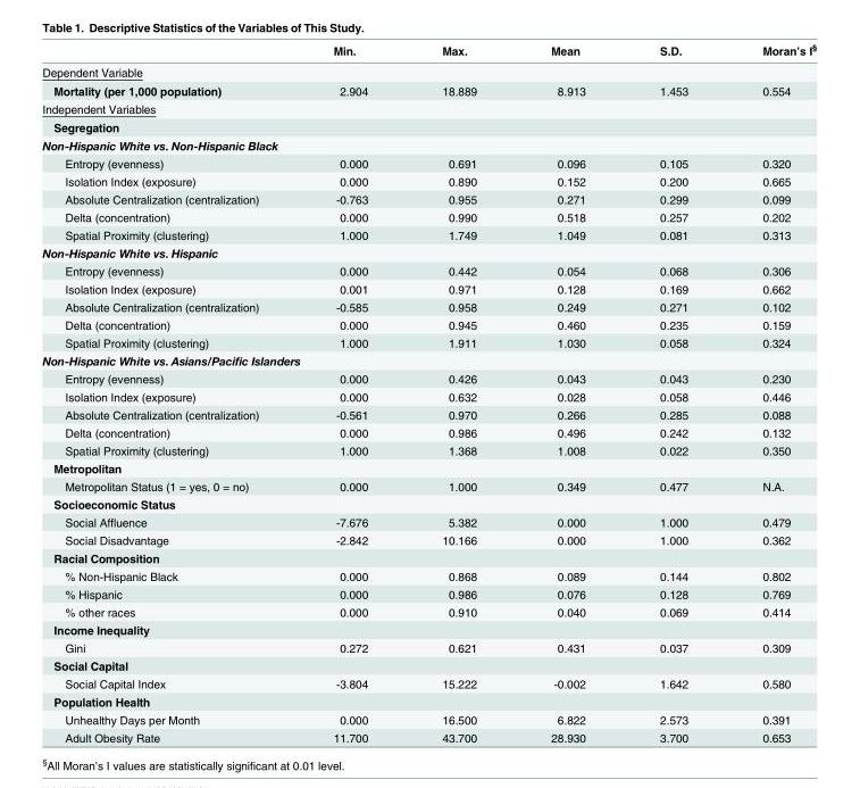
<table><thead><tr><td></td><td>Min.</td><td>Max.</td><td>Mean</td><td>S.D.</td><td>Moran’s I<sup>§</sup></td></tr></thead><tbody><tr><td colspan="6">Dependent Variable</td></tr><tr><td>Mortality (per 1,000 population)</td><td>2.904</td><td>18.889</td><td>8.913</td><td>1.453</td><td>0.554</td></tr><tr><td colspan="6">Independent Variables</td></tr><tr><td colspan="6">Segregation</td></tr><tr><td colspan="6">Non-Hispanic White vs. Non-Hispanic Black</td></tr><tr><td>Entropy (evenness)</td><td>0.000</td><td>0.691</td><td>0.096</td><td>0.105</td><td>0.320</td></tr><tr><td>Isolation Index (exposure)</td><td>0.000</td><td>0.890</td><td>0.152</td><td>0.200</td><td>0.665</td></tr><tr><td>Absolute Centralization (centralization)</td><td>-0.763</td><td>0.955</td><td>0.271</td><td>0.299</td><td>0.099</td></tr><tr><td>Delta (concentration)</td><td>0.000</td><td>0.990</td><td>0.518</td><td>0.257</td><td>0.202</td></tr><tr><td>Spatial Proximity (clustering)</td><td>1.000</td><td>1.749</td><td>1.049</td><td>0.081</td><td>0.313</td></tr><tr><td colspan="6">Non-Hispanic White vs. Hispanic</td></tr><tr><td>Entropy (evenness)</td><td>0.000</td><td>0.442</td><td>0.054</td><td>0.068</td><td>0.306</td></tr><tr><td>Isolation Index (exposure)</td><td>0.001</td><td>0.971</td><td>0.128</td><td>0.169</td><td>0.662</td></tr><tr><td>Absolute Centralization (centralization)</td><td>-0.585</td><td>0.958</td><td>0.249</td><td>0.271</td><td>0.102</td></tr><tr><td>Delta (concentration)</td><td>0.000</td><td>0.945</td><td>0.460</td><td>0.235</td><td>0.159</td></tr><tr><td>Spatial Proximity (clustering)</td><td>1.000</td><td>1.911</td><td>1.030</td><td>0.058</td><td>0.324</td></tr><tr><td colspan="6">Non-Hispanic White vs. Asians/Pacific Islanders</td></tr><tr><td>Entropy (evenness)</td><td>0.000</td><td>0.426</td><td>0.043</td><td>0.043</td><td>0.230</td></tr><tr><td>Isolation Index (exposure)</td><td>0.000</td><td>0.632</td><td>0.028</td><td>0.058</td><td>0.446</td></tr><tr><td>Absolute Centralization (centralization)</td><td>-0.561</td><td>0.970</td><td>0.266</td><td>0.285</td><td>0.088</td></tr><tr><td>Delta (concentration)</td><td>0.000</td><td>0.986</td><td>0.496</td><td>0.242</td><td>0.132</td></tr><tr><td>Spatial Proximity (clustering)</td><td>1.000</td><td>1.368</td><td>1.008</td><td>0.022</td><td>0.350</td></tr><tr><td colspan="6">Metropolitan</td></tr><tr><td>Metropolitan Status (1 = yes, 0 = no)</td><td>0.000</td><td>1.000</td><td>0.349</td><td>0.477</td><td>N.A.</td></tr><tr><td colspan="6">Socioeconomic Status</td></tr><tr><td>Social Affluence</td><td>-7.676</td><td>5.382</td><td>0.000</td><td>1.000</td><td>0.479</td></tr><tr><td>Social Disadvantage</td><td>-2.842</td><td>10.166</td><td>0.000</td><td>1.000</td><td>0.362</td></tr><tr><td colspan="6">Racial Composition</td></tr><tr><td>% Non-Hispanic Black</td><td>0.000</td><td>0.868</td><td>0.089</td><td>0.144</td><td>0.802</td></tr><tr><td>% Hispanic</td><td>0.000</td><td>0.986</td><td>0.076</td><td>0.128</td><td>0.769</td></tr><tr><td>% other races</td><td>0.000</td><td>0.910</td><td>0.040</td><td>0.069</td><td>0.414</td></tr><tr><td colspan="6">Income Inequality</td></tr><tr><td>Gini</td><td>0.272</td><td>0.621</td><td>0.431</td><td>0.037</td><td>0.309</td></tr><tr><td colspan="6">Social Capital</td></tr><tr><td>Social Capital Index</td><td>-3.804</td><td>15.222</td><td>-0.002</td><td>1.642</td><td>0.580</td></tr><tr><td colspan="6">Population Health</td></tr><tr><td>Unhealthy Days per Month</td><td>0.000</td><td>16.500</td><td>6.822</td><td>2.573</td><td>0.391</td></tr><tr><td>Adult Obesity Rate</td><td>11.700</td><td>43.700</td><td>28.930</td><td>3.700</td><td>0.653</td></tr></tbody></table>